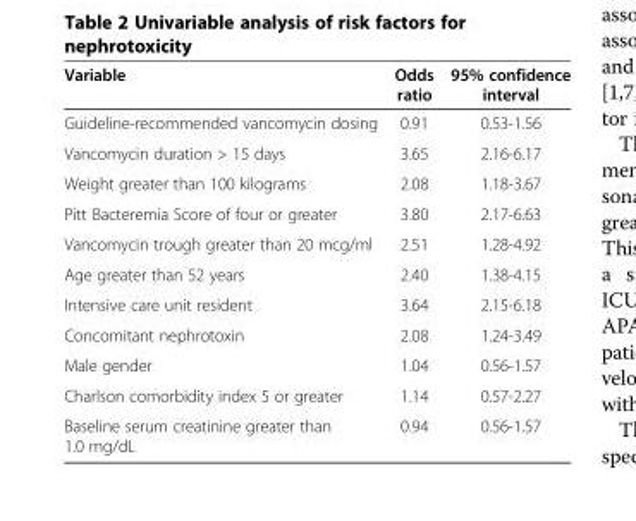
<table><thead><tr><td>Variable</td><td>Odds ratio</td><td>95% confidence interval</td></tr></thead><tbody><tr><td>Guideline-recommended vancomycin dosing</td><td>0.91</td><td>0.53-1.56</td></tr><tr><td>Vancomycin duration &gt; 15 days</td><td>3.65</td><td>2.16-6.17</td></tr><tr><td>Weight greater than 100 kilograms</td><td>2.08</td><td>1.18-3.67</td></tr><tr><td>Pitt Bacteremia Score of four or greater</td><td>3.80</td><td>2.17-6.63</td></tr><tr><td>Vancomycin trough greater than 20 mcg/ml</td><td>2.51</td><td>1.28-4.92</td></tr><tr><td>Age greater than 52 years</td><td>2.40</td><td>1.38-4.15</td></tr><tr><td>Intensive care unit resident</td><td>3.64</td><td>2.15-6.18</td></tr><tr><td>Concomitant nephrotoxin</td><td>2.08</td><td>1.24-3.49</td></tr><tr><td>Male gender</td><td>1.04</td><td>0.56-1.57</td></tr><tr><td>Charlson comorbidity index 5 or greater</td><td>1.14</td><td>0.57-2.27</td></tr><tr><td>Baseline serum creatinine greater than 1.0 mg/dL</td><td>0.94</td><td>0.56-1.57</td></tr></tbody></table>